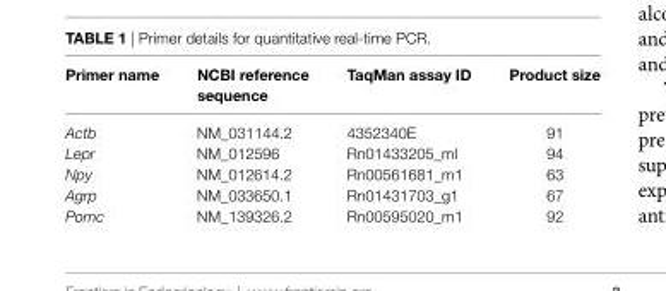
<table><thead><tr><td>Primer name</td><td>ncbi reference sequence</td><td>TaqMan assay iD</td><td>Product size</td></tr></thead><tbody><tr><td>Actb</td><td>NM_031144.2</td><td>4352340E</td><td>91</td></tr><tr><td>Lepr</td><td>NM_012596</td><td>Rn01433205_ml</td><td>94</td></tr><tr><td>Npy</td><td>NM_012614.2</td><td>Rn00561681_m1</td><td>63</td></tr><tr><td>Agrp</td><td>NM_033650.1</td><td>Rn01431703_g1</td><td>67</td></tr><tr><td>Pomc</td><td>NM_139326.2</td><td>Rn00595020_m1</td><td>92</td></tr></tbody></table>